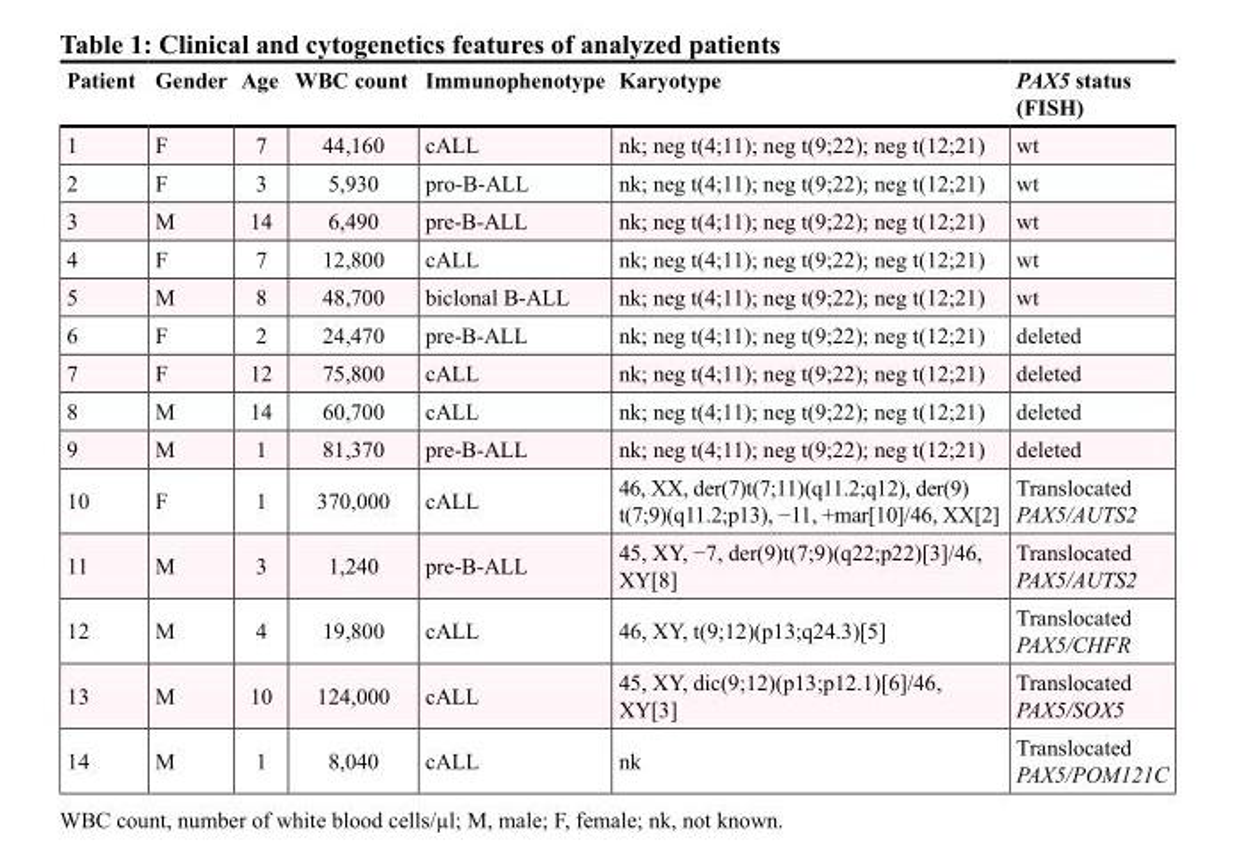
<table><thead><tr><td>Patient</td><td>Gender</td><td>Age</td><td>WBC count</td><td>Immunophenotype</td><td>Karyotype</td><td>PAX5 status (FISH)</td></tr></thead><tbody><tr><td>1</td><td>F</td><td>7</td><td>44,160</td><td>cALL</td><td>nk; neg t(4;11); neg t(9;22); neg t(12;21)</td><td>wt</td></tr><tr><td>2</td><td>F</td><td>3</td><td>5,930</td><td>pro-B-ALL</td><td>nk; neg t(4;11); neg t(9;22); neg t(12;21)</td><td>wt</td></tr><tr><td>3</td><td>M</td><td>14</td><td>6,490</td><td>pre-B-ALL</td><td>nk; neg t(4;11); neg t(9;22); neg t(12;21)</td><td>wt</td></tr><tr><td>4</td><td>F</td><td>7</td><td>12,800</td><td>cALL</td><td>nk; neg t(4;11); neg t(9;22); neg t(12;21)</td><td>wt</td></tr><tr><td>5</td><td>M</td><td>8</td><td>48,700</td><td>biclonal B-ALL</td><td>nk; neg t(4;11); neg t(9;22); neg t(12;21)</td><td>wt</td></tr><tr><td>6</td><td>F</td><td>2</td><td>24,470</td><td>pre-B-ALL</td><td>nk; neg t(4;11); neg t(9;22); neg t(12;21)</td><td>deleted</td></tr><tr><td>7</td><td>F</td><td>12</td><td>75,800</td><td>cALL</td><td>nk; neg t(4;11); neg t(9;22); neg t(12;21)</td><td>deleted</td></tr><tr><td>8</td><td>M</td><td>14</td><td>60,700</td><td>cALL</td><td>nk; neg t(4;11); neg t(9;22); neg t(12;21)</td><td>deleted</td></tr><tr><td>9</td><td>M</td><td>1</td><td>81,370</td><td>pre-B-ALL</td><td>nk; neg t(4;11); neg t(9;22); neg t(12;21)</td><td>deleted</td></tr><tr><td>10</td><td>F</td><td>1</td><td>370,000</td><td>cALL</td><td>46, XX, der(7)t(7;11)(q11.2;q12), der(9) t(7;9)(q11.2;p13), −11, +mar[10]/46, XX[2]</td><td>Translocated PAX5/AUTS2</td></tr><tr><td>11</td><td>M</td><td>3</td><td>1,240</td><td>pre-B-ALL</td><td>45, XY, −7, der(9)t(7;9)(q22;p22)[3]/46, XY[8]</td><td>Translocated PAX5/AUTS2</td></tr><tr><td>12</td><td>M</td><td>4</td><td>19,800</td><td>cALL</td><td>46, XY, t(9;12)(p13;q24.3)[5]</td><td>Translocated PAX5/CHFR</td></tr><tr><td>13</td><td>M</td><td>10</td><td>124,000</td><td>cALL</td><td>45, XY, dic(9;12)(p13;p12.1)[6]/46, XY[3]</td><td>Translocated PAX5/SOX5</td></tr><tr><td>14</td><td>M</td><td>1</td><td>8,040</td><td>cALL</td><td>nk</td><td>Translocated PAX5/POM121C</td></tr></tbody></table>